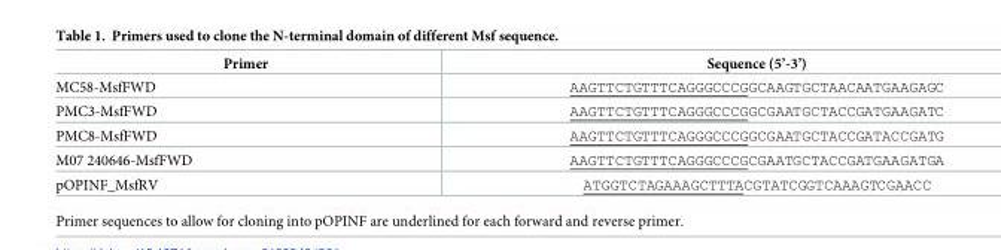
<table><thead><tr><td>Primer</td><td>Sequence (5’-3’)</td></tr></thead><tbody><tr><td>MC58-MsfFWD</td><td>AAGTTCTGTTTCAGGGCCCGGCAAGTGCTAACAATGAAGAGC</td></tr><tr><td>PMC3-MsfFWD</td><td>AAGTTCTGTTTCAGGGCCCGGCGAATGCTACCGATGAAGATC</td></tr><tr><td>PMC8-MsfFWD</td><td>AAGTTCTGTTTCAGGGCCCGGCGAATGCTACCGATACCGATG</td></tr><tr><td>M07 240646-MsfFWD</td><td>AAGTTCTGTTTCAGGGCCCGCGAATGCTACCGATGAAGATGA</td></tr><tr><td>pOPINF_MsfRV</td><td>ATGGTCTAGAAAGCTTTACGTATCGGTCAAAGTCGAACC</td></tr></tbody></table>